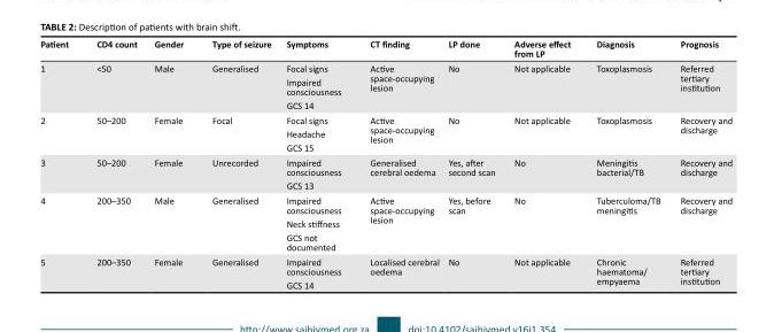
<table><thead><tr><td>Patient</td><td>CD4 count</td><td>Gender</td><td>Type of seizure</td><td>Symptoms</td><td>CT finding</td><td>LP done</td><td>Adverse effect from LP</td><td>Diagnosis</td><td>Prognosis</td></tr></thead><tbody><tr><td>1</td><td>&lt;50</td><td>Male</td><td>Generalised</td><td>Focal signs Impaired consciousness GCS 14</td><td>Active space-occupying lesion</td><td>No</td><td>Not applicable</td><td>Toxoplasmosis</td><td>Referred tertiary institution</td></tr><tr><td>2</td><td>50–200</td><td>Female</td><td>Focal</td><td>Focal signs Headache GCS 15</td><td>Active space-occupying lesion</td><td>No</td><td>Not applicable</td><td>Toxoplasmosis</td><td>Recovery and discharge</td></tr><tr><td>3</td><td>50–200</td><td>Female</td><td>Unrecorded</td><td>Impaired consciousness GCS 13</td><td>Generalised cerebral oedema</td><td>Yes, after second scan</td><td>No</td><td>Meningitis bacterial/TB</td><td>Recovery and discharge</td></tr><tr><td>4</td><td>200–350</td><td>Male</td><td>Generalised</td><td>Impaired consciousness Neck stiffness GCS not documented</td><td>Active space-occupying lesion</td><td>Yes, before scan</td><td>No</td><td>Tuberculoma/TB meningitis</td><td>Recovery and discharge</td></tr><tr><td>5</td><td>200–350</td><td>Female</td><td>Generalised</td><td>Impaired consciousness GCS 14</td><td>Localised cerebral oedema</td><td>No</td><td>Not applicable</td><td>Chronic haematoma/ empyaema</td><td>Referred tertiary institution</td></tr></tbody></table>